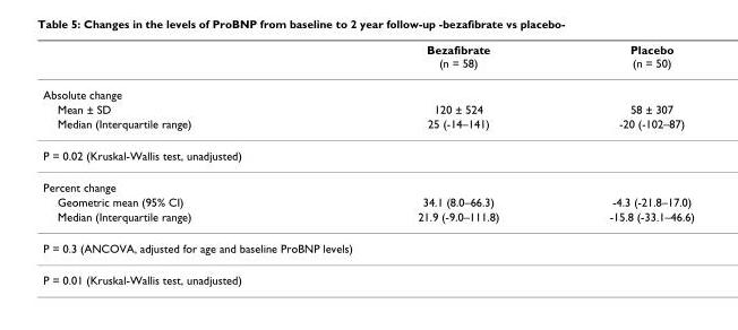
<table><thead><tr><td></td><td>Bezafibrate (n = 58)</td><td>Placebo (n = 50)</td></tr></thead><tbody><tr><td colspan="3">Absolute change</td></tr><tr><td>Mean ± SD</td><td>120 ± 524</td><td>58 ± 307</td></tr><tr><td>Median (Interquartile range)</td><td>25 (-14–141)</td><td>-20 (-102–87)</td></tr><tr><td colspan="3">P = 0.02 (Kruskal-Wallis test, unadjusted)</td></tr><tr><td colspan="3">Percent change</td></tr><tr><td>Geometric mean (95% CI)</td><td>34.1 (8.0–66.3)</td><td>-4.3 (-21.8–17.0)</td></tr><tr><td>Median (Interquartile range)</td><td>21.9 (-9.0–111.8)</td><td>-15.8 (-33.1–46.6)</td></tr><tr><td colspan="3">P = 0.3 (ANCOVA, adjusted for age and baseline ProBNP levels)</td></tr><tr><td colspan="3">P = 0.01 (Kruskal-Wallis test, unadjusted)</td></tr></tbody></table>